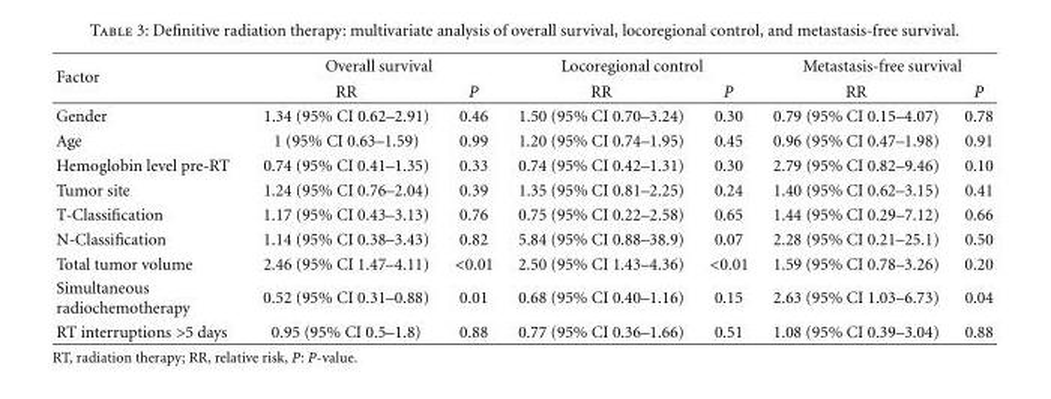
<table><thead><tr><td rowspan="2">Factor</td><td colspan="2">Overall survival</td><td colspan="2">Locoregional control</td><td colspan="2">Metastasis-free survival</td></tr><tr><td>RR</td><td>P</td><td>RR</td><td>P</td><td>RR</td><td>P</td></tr></thead><tbody><tr><td>Gender</td><td>1.34 (95% CI 0.62–2.91)</td><td>0.46</td><td>1.50 (95% CI 0.70–3.24)</td><td>0.30</td><td>0.79 (95% CI 0.15–4.07)</td><td>0.78</td></tr><tr><td>Age</td><td>1 (95% CI 0.63–1.59)</td><td>0.99</td><td>1.20 (95% CI 0.74–1.95)</td><td>0.45</td><td>0.96 (95% CI 0.47–1.98)</td><td>0.91</td></tr><tr><td>Hemoglobin level pre-RT</td><td>0.74 (95% CI 0.41–1.35)</td><td>0.33</td><td>0.74 (95% CI 0.42–1.31)</td><td>0.30</td><td>2.79 (95% CI 0.82–9.46)</td><td>0.10</td></tr><tr><td>Tumor site</td><td>1.24 (95% CI 0.76–2.04)</td><td>0.39</td><td>1.35 (95% CI 0.81–2.25)</td><td>0.24</td><td>1.40 (95% CI 0.62–3.15)</td><td>0.41</td></tr><tr><td>T-Classification</td><td>1.17 (95% CI 0.43–3.13)</td><td>0.76</td><td>0.75 (95% CI 0.22–2.58)</td><td>0.65</td><td>1.44 (95% CI 0.29–7.12)</td><td>0.66</td></tr><tr><td>N-Classification</td><td>1.14 (95% CI 0.38–3.43)</td><td>0.82</td><td>5.84 (95% CI 0.88–38.9)</td><td>0.07</td><td>2.28 (95% CI 0.21–25.1)</td><td>0.50</td></tr><tr><td>Total tumor volume</td><td>2.46 (95% CI 1.47–4.11)</td><td>&lt;0.01</td><td>2.50 (95% CI 1.43–4.36)</td><td>&lt;0.01</td><td>1.59 (95% CI 0.78–3.26)</td><td>0.20</td></tr><tr><td>Simultaneous radiochemotherapy</td><td>0.52 (95% CI 0.31–0.88)</td><td>0.01</td><td>0.68 (95% CI 0.40–1.16)</td><td>0.15</td><td>2.63 (95% CI 1.03–6.73)</td><td>0.04</td></tr><tr><td>RT interruptions &gt;5 days</td><td>0.95 (95% CI 0.5–1.8)</td><td>0.88</td><td>0.77 (95% CI 0.36–1.66)</td><td>0.51</td><td>1.08 (95% CI 0.39–3.04)</td><td>0.88</td></tr></tbody></table>